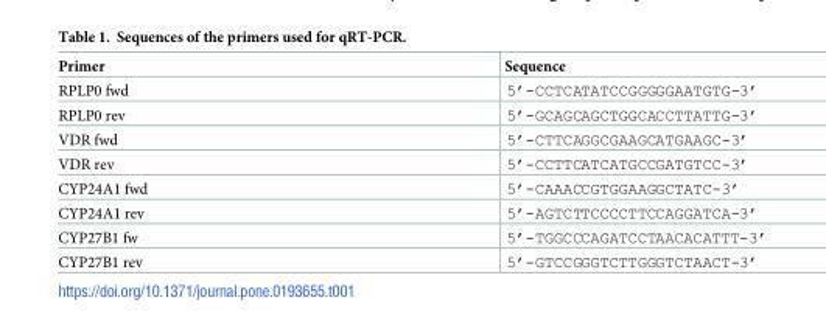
<table><thead><tr><td>Primer</td><td>Sequence</td></tr></thead><tbody><tr><td>RPLP0 fwd</td><td>5’-CCTCATATCCGGGGGAATGTG-3’</td></tr><tr><td>RPLP0 rev</td><td>5’-GCAGCAGCTGGCACCTTATTG-3’</td></tr><tr><td>VDR fwd</td><td>5’-CTTCAGGCGAAGCATGAAGC-3’</td></tr><tr><td>VDR rev</td><td>5’-CCTTCATCATGCCGATGTCC-3’</td></tr><tr><td>CYP24A1 fwd</td><td>5’-CAAACCGTGGAAGGCTATC-3’</td></tr><tr><td>CYP24A1 rev</td><td>5’-AGTCTTCCCCTTCCAGGATCA-3’</td></tr><tr><td>CYP27B1 fw</td><td>5’-TGGCCCAGATCCTAACACATTT-3’</td></tr><tr><td>CYP27B1 rev</td><td>5’-GTCCGGGTCTTGGGTCTAACT-3’</td></tr></tbody></table>